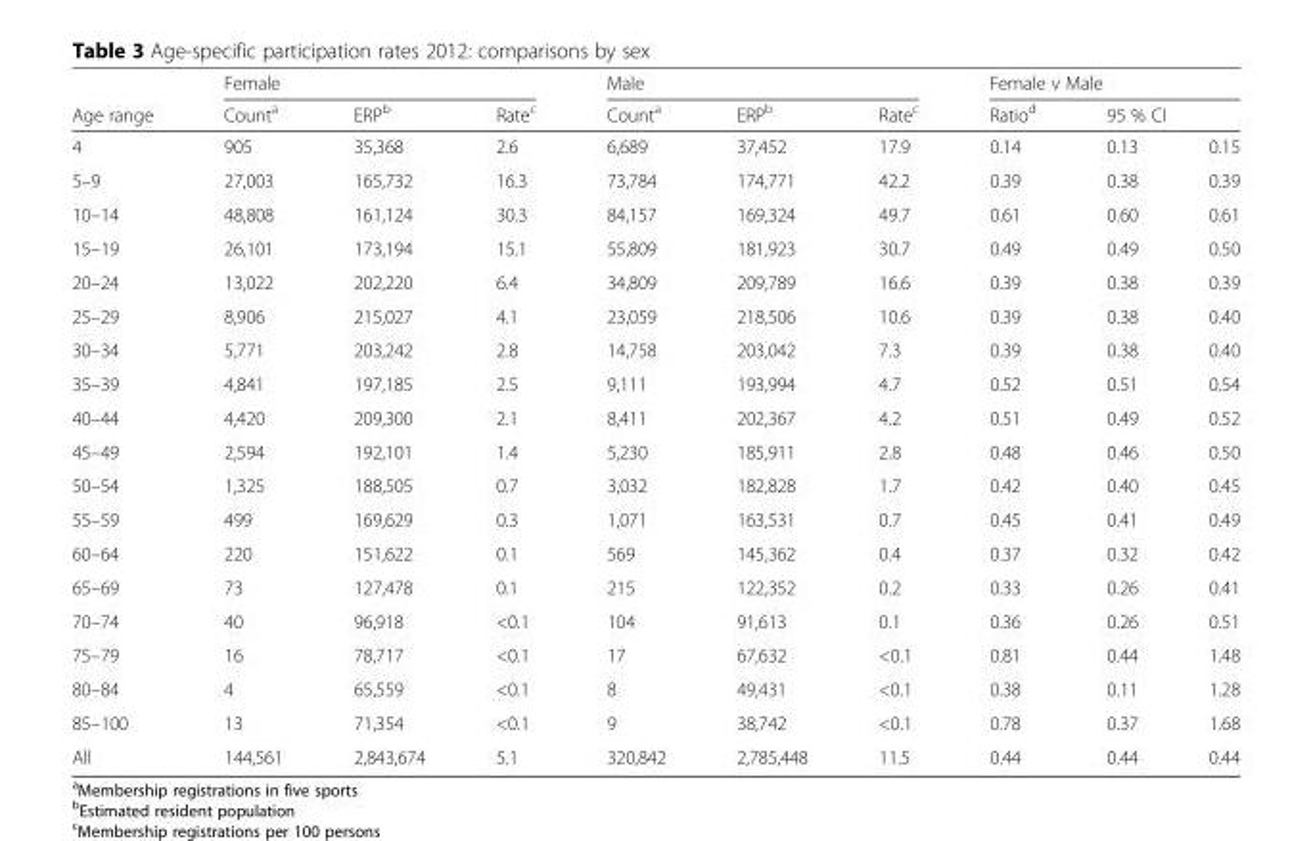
<table><thead><tr><td rowspan="3">Age range 4</td><td colspan="3">Female</td><td colspan="3">Male</td><td colspan="3">Female v Male</td></tr><tr><td rowspan="2">Count<sup>a</sup> 905</td><td rowspan="2">ERP<sup>b</sup> 35,368</td><td rowspan="2">Rate<sup>c</sup> 2.6</td><td rowspan="2">Count<sup>a</sup> 6,689</td><td rowspan="2">ERP<sup>b</sup> 37,452</td><td rowspan="2">Rate<sup>c</sup> 17.9</td><td rowspan="2">Ratio<sup>d</sup> 0.14</td><td colspan="2">95 % CI</td></tr><tr><td>0.13</td><td>0.15</td></tr></thead><tbody><tr><td>5–9</td><td>27,003</td><td>165,732</td><td>16.3</td><td>73,784</td><td>174,771</td><td>42.2</td><td>0.39</td><td>0.38</td><td>0.39</td></tr><tr><td>10–14</td><td>48,808</td><td>161,124</td><td>30.3</td><td>84,157</td><td>169,324</td><td>49.7</td><td>0.61</td><td>0.60</td><td>0.61</td></tr><tr><td>15–19</td><td>26,101</td><td>173,194</td><td>15.1</td><td>55,809</td><td>181,923</td><td>30.7</td><td>0.49</td><td>0.49</td><td>0.50</td></tr><tr><td>20–24</td><td>13,022</td><td>202,220</td><td>6.4</td><td>34,809</td><td>209,789</td><td>16.6</td><td>0.39</td><td>0.38</td><td>0.39</td></tr><tr><td>25–29</td><td>8,906</td><td>215,027</td><td>4.1</td><td>23,059</td><td>218,506</td><td>10.6</td><td>0.39</td><td>0.38</td><td>0.40</td></tr><tr><td>30–34</td><td>5,771</td><td>203,242</td><td>2.8</td><td>14,758</td><td>203,042</td><td>7.3</td><td>0.39</td><td>0.38</td><td>0.40</td></tr><tr><td>35–39</td><td>4,841</td><td>197,185</td><td>2.5</td><td>9,111</td><td>193,994</td><td>4.7</td><td>0.52</td><td>0.51</td><td>0.54</td></tr><tr><td>40–44</td><td>4,420</td><td>209,300</td><td>2.1</td><td>8,411</td><td>202,367</td><td>4.2</td><td>0.51</td><td>0.49</td><td>0.52</td></tr><tr><td>45–49</td><td>2,594</td><td>192,101</td><td>1.4</td><td>5,230</td><td>185,911</td><td>2.8</td><td>0.48</td><td>0.46</td><td>0.50</td></tr><tr><td>50–54</td><td>1,325</td><td>188,505</td><td>0.7</td><td>3,032</td><td>182,828</td><td>1.7</td><td>0.42</td><td>0.40</td><td>0.45</td></tr><tr><td>55–59</td><td>499</td><td>169,629</td><td>0.3</td><td>1,071</td><td>163,531</td><td>0.7</td><td>0.45</td><td>0.41</td><td>0.49</td></tr><tr><td>60–64</td><td>220</td><td>151,622</td><td>0.1</td><td>569</td><td>145,362</td><td>0.4</td><td>0.37</td><td>0.32</td><td>0.42</td></tr><tr><td>65–69</td><td>73</td><td>127,478</td><td>0.1</td><td>215</td><td>122,352</td><td>0.2</td><td>0.33</td><td>0.26</td><td>0.41</td></tr><tr><td>70–74</td><td>40</td><td>96,918</td><td>&lt;0.1</td><td>104</td><td>91,613</td><td>0.1</td><td>0.36</td><td>0.26</td><td>0.51</td></tr><tr><td>75–79</td><td>16</td><td>78,717</td><td>&lt;0.1</td><td>17</td><td>67,632</td><td>&lt;0.1</td><td>0.81</td><td>0.44</td><td>1.48</td></tr><tr><td>80–84</td><td>4</td><td>65,559</td><td>&lt;0.1</td><td>8</td><td>49,431</td><td>&lt;0.1</td><td>0.38</td><td>0.11</td><td>1.28</td></tr><tr><td>85–100</td><td>13</td><td>71,354</td><td>&lt;0.1</td><td>9</td><td>38,742</td><td>&lt;0.1</td><td>0.78</td><td>0.37</td><td>1.68</td></tr><tr><td>All</td><td>144,561</td><td>2,843,674</td><td>5.1</td><td>320,842</td><td>2,785,448</td><td>11.5</td><td>0.44</td><td>0.44</td><td>0.44</td></tr></tbody></table>